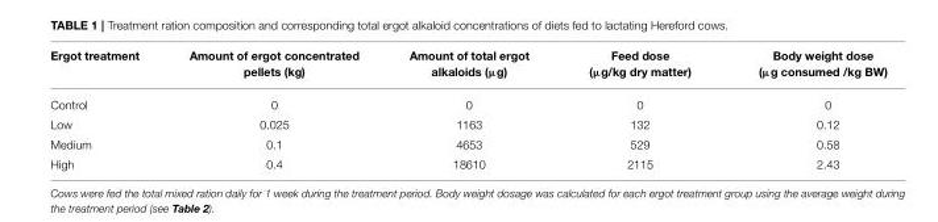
<table><thead><tr><td>Ergot treatment</td><td>Amount of ergot concentrated pellets (kg)</td><td>Amount of total ergot alkaloids (µg)</td><td>Feed dose (µg/kg dry matter)</td><td>Body weight dose (µg consumed /kg BW)</td></tr></thead><tbody><tr><td>Control</td><td>0</td><td>0</td><td>0</td><td>0</td></tr><tr><td>Low</td><td>0.025</td><td>1163</td><td>132</td><td>0.12</td></tr><tr><td>Medium</td><td>0.1</td><td>4653</td><td>529</td><td>0.58</td></tr><tr><td>High</td><td>0.4</td><td>18610</td><td>2115</td><td>2.43</td></tr></tbody></table>